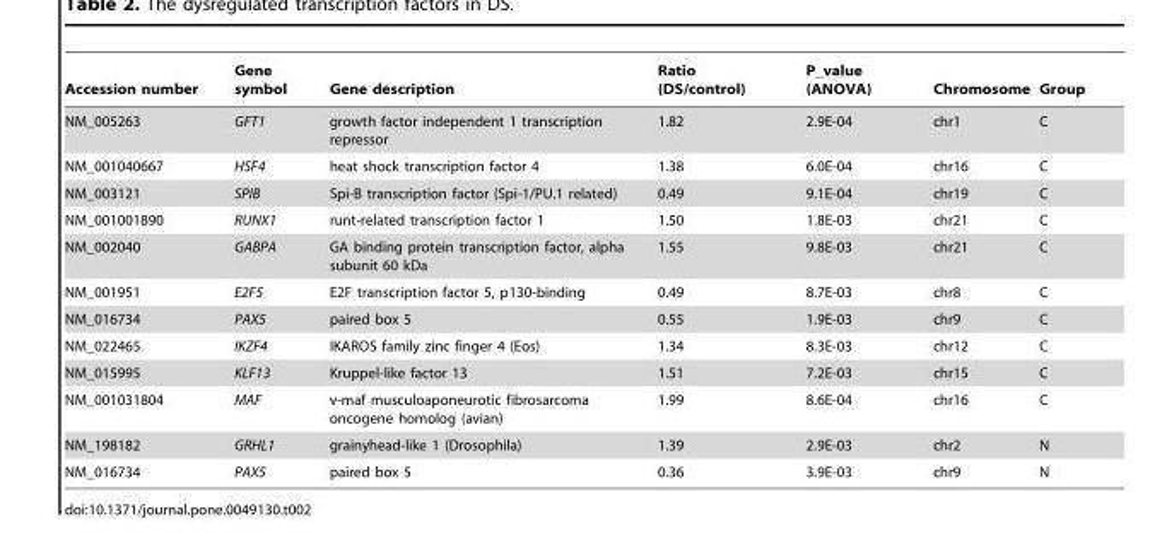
<table><thead><tr><td>Accession number</td><td>Gene symbol</td><td>Gene description</td><td>Ratio (DS/control)</td><td>P_value (ANOVA)</td><td>Chromosome</td><td>Group</td></tr></thead><tbody><tr><td>NM_005263</td><td>GFT1</td><td>growth factor independent 1 transcription repressor</td><td>1.82</td><td>2.9E-04</td><td>chr1</td><td>C</td></tr><tr><td>NM_001040667</td><td>HSF4</td><td>heat shock transcription factor 4</td><td>1.38</td><td>6.0E-04</td><td>chr16</td><td>C</td></tr><tr><td>NM_003121</td><td>SPIB</td><td>Spi-B transcription factor (Spi-1/PU.1 related)</td><td>0.49</td><td>9.1E-04</td><td>chr19</td><td>C</td></tr><tr><td>NM_001001890</td><td>RUNX1</td><td>runt-related transcription factor 1</td><td>1.50</td><td>1.8E-03</td><td>chr21</td><td>C</td></tr><tr><td>NM_002040</td><td>GABPA</td><td>GA binding protein transcription factor, alpha subunit 60 kDa</td><td>1.55</td><td>9.8E-03</td><td>chr21</td><td>C</td></tr><tr><td>NM_001951</td><td>E2F5</td><td>E2F transcription factor 5, p130-binding</td><td>0.49</td><td>8.7E-03</td><td>chr8</td><td>C</td></tr><tr><td>NM_016734</td><td>PAX5</td><td>paired box 5</td><td>0.55</td><td>1.9E-03</td><td>chr9</td><td>C</td></tr><tr><td>NM_022465</td><td>IKZF4</td><td>IKAROS family zinc finger 4 (Eos)</td><td>1.34</td><td>8.3E-03</td><td>chr12</td><td>C</td></tr><tr><td>NM_015995</td><td>KLF13</td><td>Kruppel-like factor 13</td><td>1.51</td><td>7.2E-03</td><td>chr15</td><td>C</td></tr><tr><td>NM_001031804</td><td>MAF</td><td>v-maf musculoaponeurotic fibrosarcoma oncogene homolog (avian)</td><td>1.99</td><td>8.6E-04</td><td>chr16</td><td>C</td></tr><tr><td>NM_198182</td><td>GRHL1</td><td>grainyhead-like 1 (Drosophila)</td><td>1.39</td><td>2.9E-03</td><td>chr2</td><td>N</td></tr><tr><td>NM_016734</td><td>PAX5</td><td>paired box 5</td><td>0.36</td><td>3.9E-03</td><td>chr9</td><td>N</td></tr></tbody></table>